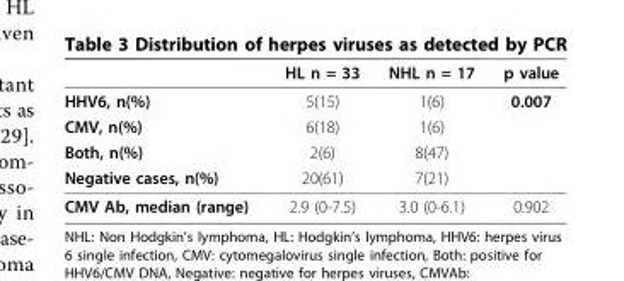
<table><thead><tr><td></td><td>HL n = 33</td><td>NHL n = 17</td><td>p value</td></tr></thead><tbody><tr><td>HHV6, n(%)</td><td>5(15)</td><td>1(6)</td><td>0.007</td></tr><tr><td>CMV, n(%)</td><td>6(18)</td><td>1(6)</td><td></td></tr><tr><td>Both, n(%)</td><td>2(6)</td><td>8(47)</td><td></td></tr><tr><td>Negative cases, n(%)</td><td>20(61)</td><td>7(21)</td><td></td></tr><tr><td>CMV Ab, median (range)</td><td>2.9 (0-7.5)</td><td>3.0 (0-6.1)</td><td>0.902</td></tr></tbody></table>